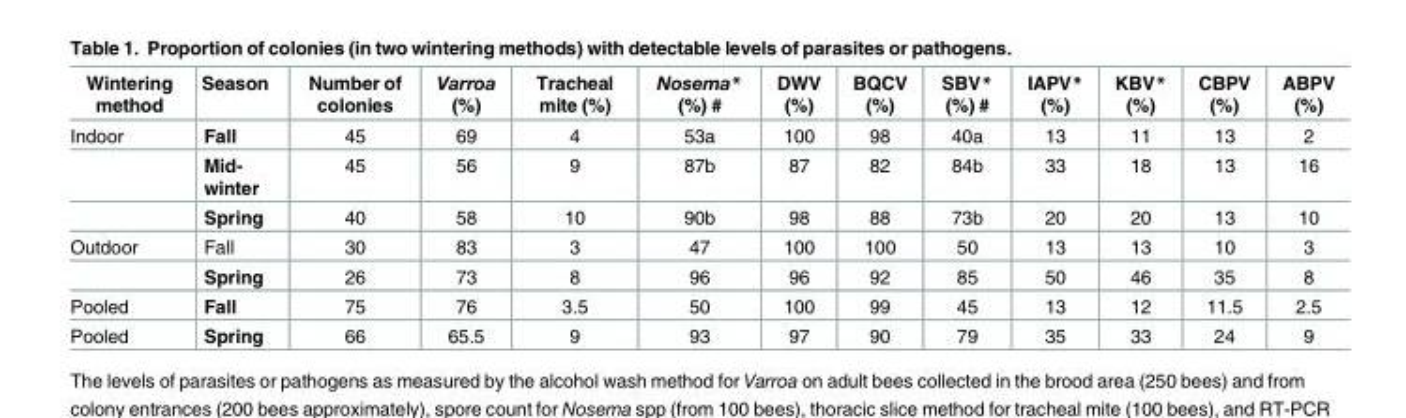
<table><thead><tr><td>Wintering method</td><td>Season</td><td>Number of colonies</td><td>Varroa (%)</td><td>Tracheal mite (%)</td><td>Nosema* (%) #</td><td>DWV (%)</td><td>BQCV (%)</td><td>SBV* (%) #</td><td>IAPV* (%)</td><td>KBV* (%)</td><td>CBPV (%)</td><td>ABPV (%)</td></tr></thead><tbody><tr><td rowspan="3">Indoor</td><td>Fall</td><td>45</td><td>69</td><td>4</td><td>53a</td><td>100</td><td>98</td><td>40a</td><td>13</td><td>11</td><td>13</td><td>2</td></tr><tr><td>Mid- winter</td><td>45</td><td>56</td><td>9</td><td>87b</td><td>87</td><td>82</td><td>84b</td><td>33</td><td>18</td><td>13</td><td>16</td></tr><tr><td>Spring</td><td>40</td><td>58</td><td>10</td><td>90b</td><td>98</td><td>88</td><td>73b</td><td>20</td><td>20</td><td>13</td><td>10</td></tr><tr><td rowspan="2">Outdoor</td><td>Fall</td><td>30</td><td>83</td><td>3</td><td>47</td><td>100</td><td>100</td><td>50</td><td>13</td><td>13</td><td>10</td><td>3</td></tr><tr><td>Spring</td><td>26</td><td>73</td><td>8</td><td>96</td><td>96</td><td>92</td><td>85</td><td>50</td><td>46</td><td>35</td><td>8</td></tr><tr><td>Pooled</td><td>Fall</td><td>75</td><td>76</td><td>3.5</td><td>50</td><td>100</td><td>99</td><td>45</td><td>13</td><td>12</td><td>11.5</td><td>2.5</td></tr><tr><td>Pooled</td><td>Spring</td><td>66</td><td>65.5</td><td>9</td><td>93</td><td>97</td><td>90</td><td>79</td><td>35</td><td>33</td><td>24</td><td>9</td></tr></tbody></table>